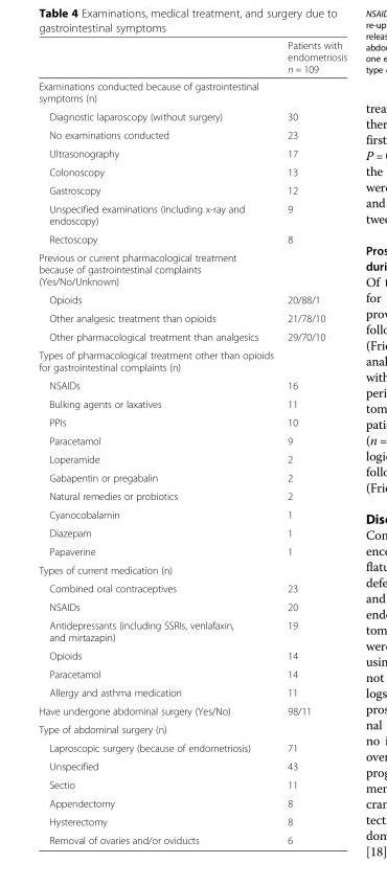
<table><thead><tr><td></td><td>Patients with endometriosis n = 109</td></tr></thead><tbody><tr><td colspan="2">Examinations conducted because of gastrointestinal symptoms (n)</td></tr><tr><td>Diagnostic laparoscopy (without surgery)</td><td>30</td></tr><tr><td>No examinations conducted</td><td>23</td></tr><tr><td>Ultrasonography</td><td>17</td></tr><tr><td>Colonoscopy</td><td>13</td></tr><tr><td>Gastroscopy</td><td>12</td></tr><tr><td>Unspecified examinations (including x-ray and endoscopy)</td><td>9</td></tr><tr><td>Rectoscopy</td><td>8</td></tr><tr><td colspan="2">Previous or current pharmacological treatment because of gastrointestinal complaints (Yes/No/Unknown)</td></tr><tr><td>Opioids</td><td>20/88/1</td></tr><tr><td>Other analgesic treatment than opioids</td><td>21/78/10</td></tr><tr><td>Other pharmacological treatment than analgesics</td><td>29/70/10</td></tr><tr><td colspan="2">Types of pharmacological treatment other than opioids for gastrointestinal complaints (n)</td></tr><tr><td>NSAIDs</td><td>16</td></tr><tr><td>Bulking agents or laxatives</td><td>11</td></tr><tr><td>PPIs</td><td>10</td></tr><tr><td>Paracetamol</td><td>9</td></tr><tr><td>Loperamide</td><td>2</td></tr><tr><td>Gabapentin or pregabalin</td><td>2</td></tr><tr><td>Natural remedies or probiotics</td><td>2</td></tr><tr><td>Cyanocobalamin</td><td>1</td></tr><tr><td>Diazepam</td><td>1</td></tr><tr><td>Papaverine</td><td>1</td></tr><tr><td colspan="2">Types of current medication (n)</td></tr><tr><td>Combined oral contraceptives</td><td>23</td></tr><tr><td>NSAIDs</td><td>20</td></tr><tr><td>Antidepressants (including SSRIs, venlafaxin, and mirtazapin)</td><td>19</td></tr><tr><td>Opioids</td><td>14</td></tr><tr><td>Paracetamol</td><td>14</td></tr><tr><td>Allergy and asthma medication</td><td>11</td></tr><tr><td>Have undergone abdominal surgery (Yes/No)</td><td>98/11</td></tr><tr><td colspan="2">Type of abdominal surgery (n)</td></tr><tr><td>Laproscopic surgery (because of endometriosis)</td><td>71</td></tr><tr><td>Unspecified</td><td>43</td></tr><tr><td>Sectio</td><td>11</td></tr><tr><td>Appendectomy</td><td>8</td></tr><tr><td>Hysterectomy</td><td>8</td></tr><tr><td>Removal of ovaries and/or oviducts</td><td>6</td></tr></tbody></table>